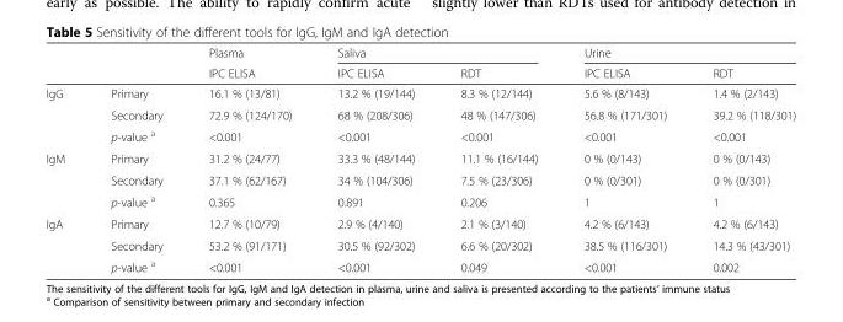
<table><thead><tr><td rowspan="2"></td><td rowspan="2"></td><td rowspan="2">Plasma IPC ELISA</td><td colspan="2">Saliva</td><td colspan="2">Urine</td></tr><tr><td>IPC ELISA</td><td>RDT</td><td>IPC ELISA</td><td>RDT</td></tr></thead><tbody><tr><td rowspan="3">IgG</td><td>Primary</td><td>16.1 % (13/81)</td><td>13.2 % (19/144)</td><td>8.3 % (12/144)</td><td>5.6 % (8/143)</td><td>1.4 % (2/143)</td></tr><tr><td>Secondary</td><td>72.9 % (124/170)</td><td>68 % (208/306)</td><td>48 % (147/306)</td><td>56.8 % (171/301)</td><td>39.2 % (118/301)</td></tr><tr><td>p-value <sup>a</sup></td><td>&lt;0.001</td><td>&lt;0.001</td><td>&lt;0.001</td><td>&lt;0.001</td><td>&lt;0.001</td></tr><tr><td rowspan="3">IgM</td><td>Primary</td><td>31.2 % (24/77)</td><td>33.3 % (48/144)</td><td>11.1 % (16/144)</td><td>0 % (0/143)</td><td>0 % (0/143)</td></tr><tr><td>Secondary</td><td>37.1 % (62/167)</td><td>34 % (104/306)</td><td>7.5 % (23/306)</td><td>0 % (0/301)</td><td>0 % (0/301)</td></tr><tr><td>p-value <sup>a</sup></td><td>0.365</td><td>0.891</td><td>0.206</td><td>1</td><td>1</td></tr><tr><td rowspan="3">IgA</td><td>Primary</td><td>12.7 % (10/79)</td><td>2.9 % (4/140)</td><td>2.1 % (3/140)</td><td>4.2 % (6/143)</td><td>4.2 % (6/143)</td></tr><tr><td>Secondary</td><td>53.2 % (91/171)</td><td>30.5 % (92/302)</td><td>6.6 % (20/302)</td><td>38.5 % (116/301)</td><td>14.3 % (43/301)</td></tr><tr><td>p-value <sup>a</sup></td><td>&lt;0.001</td><td>&lt;0.001</td><td>0.049</td><td>&lt;0.001</td><td>0.002</td></tr></tbody></table>